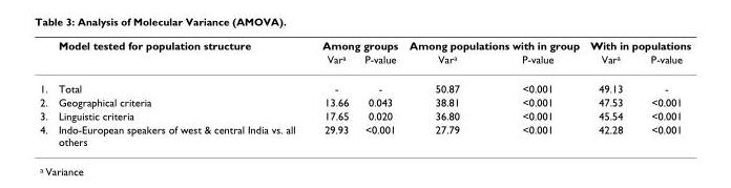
<table><thead><tr><td rowspan="2"></td><td rowspan="2">Model tested for population structure</td><td colspan="2">Among groups</td><td colspan="2">Among populations with in group</td><td colspan="2">With in populations</td></tr><tr><td>Var<sup>a</sup></td><td>P-value</td><td>Var<sup>a</sup></td><td>P-value</td><td>Var<sup>a</sup></td><td>P-value</td></tr></thead><tbody><tr><td>1.</td><td>Total</td><td>-</td><td>-</td><td>50.87</td><td>&lt;0.001</td><td>49.13</td><td>-</td></tr><tr><td>2.</td><td>Geographical criteria</td><td>13.66</td><td>0.043</td><td>38.81</td><td>&lt;0.001</td><td>47.53</td><td>&lt;0.001</td></tr><tr><td>3.</td><td>Linguistic criteria</td><td>17.65</td><td>0.020</td><td>36.80</td><td>&lt;0.001</td><td>45.54</td><td>&lt;0.001</td></tr><tr><td>4.</td><td>Indo-European speakers of west &amp; central India vs. all others</td><td>29.93</td><td>&lt;0.001</td><td>27.79</td><td>&lt;0.001</td><td>42.28</td><td>&lt;0.001</td></tr></tbody></table>